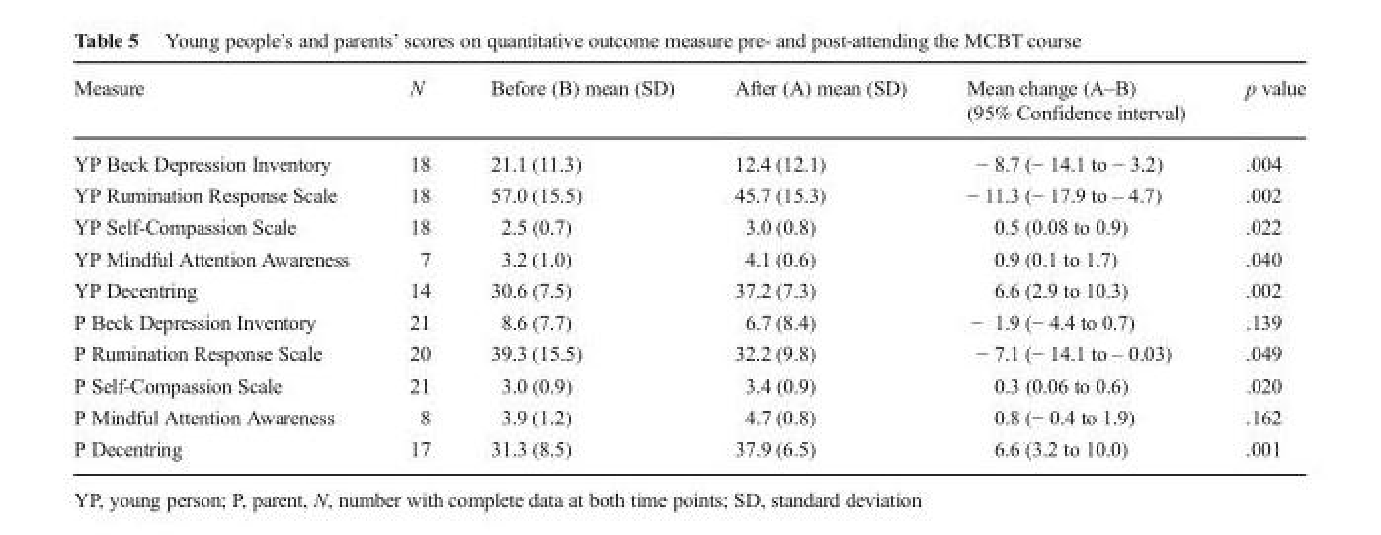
<table><thead><tr><td>Measure</td><td>N</td><td>Before (B) mean (SD)</td><td>After (A) mean (SD)</td><td>Mean change (A–B) (95% Confidence interval)</td><td>p value</td></tr></thead><tbody><tr><td>YP Beck Depression Inventory</td><td>18</td><td>21.1 (11.3)</td><td>12.4 (12.1)</td><td>− 8.7 (− 14.1 to − 3.2)</td><td>.004</td></tr><tr><td>YP Rumination Response Scale</td><td>18</td><td>57.0 (15.5)</td><td>45.7 (15.3)</td><td>− 11.3 (− 17.9 to – 4.7)</td><td>.002</td></tr><tr><td>YP Self-Compassion Scale</td><td>18</td><td>2.5 (0.7)</td><td>3.0 (0.8)</td><td>0.5 (0.08 to 0.9)</td><td>.022</td></tr><tr><td>YP Mindful Attention Awareness</td><td>7</td><td>3.2 (1.0)</td><td>4.1 (0.6)</td><td>0.9 (0.1 to 1.7)</td><td>.040</td></tr><tr><td>YP Decentring</td><td>14</td><td>30.6 (7.5)</td><td>37.2 (7.3)</td><td>6.6 (2.9 to 10.3)</td><td>.002</td></tr><tr><td>P Beck Depression Inventory</td><td>21</td><td>8.6 (7.7)</td><td>6.7 (8.4)</td><td>− 1.9 (− 4.4 to 0.7)</td><td>.139</td></tr><tr><td>P Rumination Response Scale</td><td>20</td><td>39.3 (15.5)</td><td>32.2 (9.8)</td><td>− 7.1 (− 14.1 to – 0.03)</td><td>.049</td></tr><tr><td>P Self-Compassion Scale</td><td>21</td><td>3.0 (0.9)</td><td>3.4 (0.9)</td><td>0.3 (0.06 to 0.6)</td><td>.020</td></tr><tr><td>P Mindful Attention Awareness</td><td>8</td><td>3.9 (1.2)</td><td>4.7 (0.8)</td><td>0.8 (− 0.4 to 1.9)</td><td>.162</td></tr><tr><td>P Decentring</td><td>17</td><td>31.3 (8.5)</td><td>37.9 (6.5)</td><td>6.6 (3.2 to 10.0)</td><td>.001</td></tr></tbody></table>